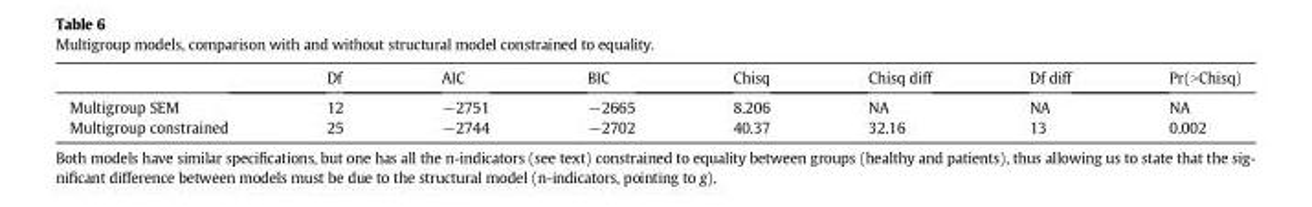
<table><thead><tr><td></td><td>Df</td><td>AIC</td><td>BIC</td><td>Chisq</td><td>Chisq diff</td><td>Df diff</td><td>Pr(&gt;Chisq)</td></tr></thead><tbody><tr><td>Multigroup SEM</td><td>12</td><td>−2751</td><td>−2665</td><td>8.206</td><td>NA</td><td>NA</td><td>NA</td></tr><tr><td>Multigroup constrained</td><td>25</td><td>−2744</td><td>−2702</td><td>40.37</td><td>32.16</td><td>13</td><td>0.002</td></tr></tbody></table>